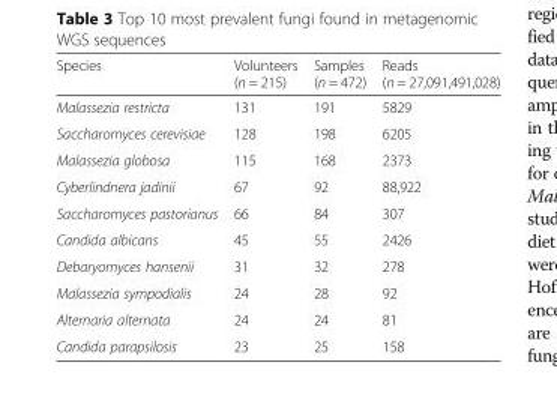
<table><thead><tr><td>Species</td><td>Volunteers (n = 215)</td><td>Samples (n = 472)</td><td>Reads (n = 27,091,491,028)</td></tr></thead><tbody><tr><td>Malassezia restricta</td><td>131</td><td>191</td><td>5829</td></tr><tr><td>Saccharomyces cerevisiae</td><td>128</td><td>198</td><td>6205</td></tr><tr><td>Malassezia globosa</td><td>115</td><td>168</td><td>2373</td></tr><tr><td>Cyberlindnera jadinii</td><td>67</td><td>92</td><td>88,922</td></tr><tr><td>Saccharomyces pastorianus</td><td>66</td><td>84</td><td>307</td></tr><tr><td>Candida albicans</td><td>45</td><td>55</td><td>2426</td></tr><tr><td>Debaryomyces hansenii</td><td>31</td><td>32</td><td>278</td></tr><tr><td>Malassezia sympodialis</td><td>24</td><td>28</td><td>92</td></tr><tr><td>Alternaria alternata</td><td>24</td><td>24</td><td>81</td></tr><tr><td>Candida parapsilosis</td><td>23</td><td>25</td><td>158</td></tr></tbody></table>